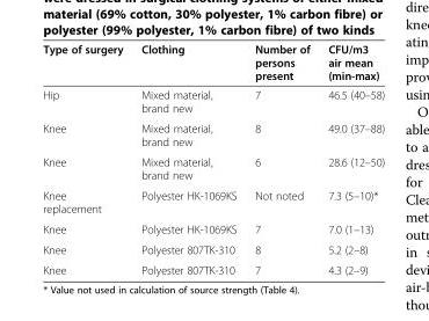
<table><thead><tr><td>Type of surgery</td><td>Clothing</td><td>Number of persons present</td><td>CFU/m3 air mean (min-max)</td></tr></thead><tbody><tr><td>Hip</td><td>Mixed material, brand new</td><td>7</td><td>46.5 (40–58)</td></tr><tr><td>Knee</td><td>Mixed material, brand new</td><td>8</td><td>49.0 (37–88)</td></tr><tr><td>Knee</td><td>Mixed material, brand new</td><td>6</td><td>28.6 (12–50)</td></tr><tr><td>Knee replacement</td><td>Polyester HK-1069KS</td><td>Not noted</td><td>7.3 (5–10)*</td></tr><tr><td>Knee</td><td>Polyester HK-1069KS</td><td>7</td><td>7.0 (1–13)</td></tr><tr><td>Knee</td><td>Polyester 807TK-310</td><td>8</td><td>5.2 (2–8)</td></tr><tr><td>Knee</td><td>Polyester 807TK-310</td><td>7</td><td>4.3 (2–9)</td></tr></tbody></table>